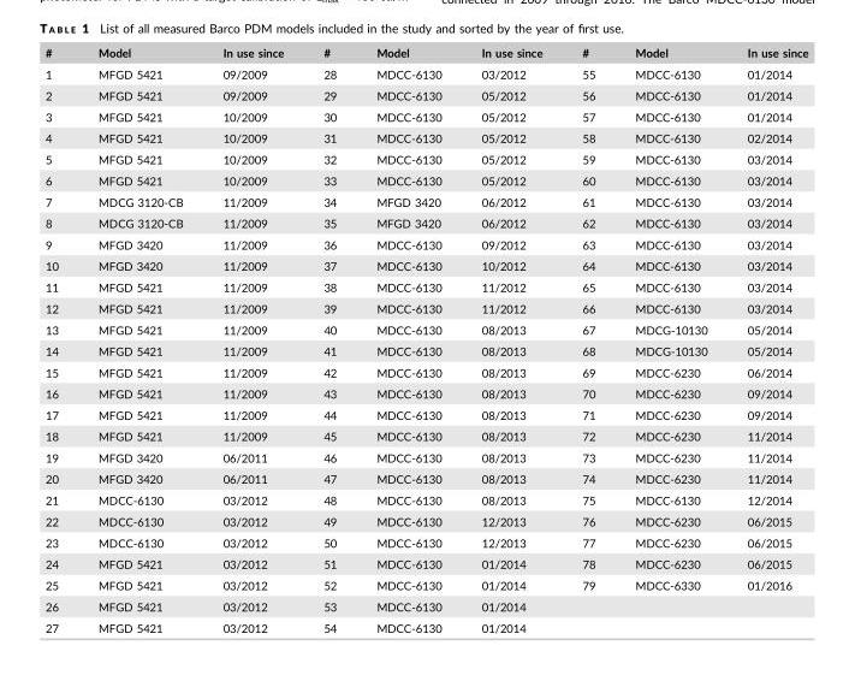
<table><thead><tr><td>#</td><td>Model</td><td>In use since</td><td>#</td><td>Model</td><td>In use since</td><td>#</td><td>Model</td><td>In use since</td></tr></thead><tbody><tr><td>1</td><td>MFGD 5421</td><td>09/2009</td><td>28</td><td>MDCC-6130</td><td>03/2012</td><td>55</td><td>MDCC-6130</td><td>01/2014</td></tr><tr><td>2</td><td>MFGD 5421</td><td>09/2009</td><td>29</td><td>MDCC-6130</td><td>05/2012</td><td>56</td><td>MDCC-6130</td><td>01/2014</td></tr><tr><td>3</td><td>MFGD 5421</td><td>10/2009</td><td>30</td><td>MDCC-6130</td><td>05/2012</td><td>57</td><td>MDCC-6130</td><td>01/2014</td></tr><tr><td>4</td><td>MFGD 5421</td><td>10/2009</td><td>31</td><td>MDCC-6130</td><td>05/2012</td><td>58</td><td>MDCC-6130</td><td>02/2014</td></tr><tr><td>5</td><td>MFGD 5421</td><td>10/2009</td><td>32</td><td>MDCC-6130</td><td>05/2012</td><td>59</td><td>MDCC-6130</td><td>03/2014</td></tr><tr><td>6</td><td>MFGD 5421</td><td>10/2009</td><td>33</td><td>MDCC-6130</td><td>05/2012</td><td>60</td><td>MDCC-6130</td><td>03/2014</td></tr><tr><td>7</td><td>MDCG 3120-CB</td><td>11/2009</td><td>34</td><td>MFGD 3420</td><td>06/2012</td><td>61</td><td>MDCC-6130</td><td>03/2014</td></tr><tr><td>8</td><td>MDCG 3120-CB</td><td>11/2009</td><td>35</td><td>MFGD 3420</td><td>06/2012</td><td>62</td><td>MDCC-6130</td><td>03/2014</td></tr><tr><td>9</td><td>MFGD 3420</td><td>11/2009</td><td>36</td><td>MDCC-6130</td><td>09/2012</td><td>63</td><td>MDCC-6130</td><td>03/2014</td></tr><tr><td>10</td><td>MFGD 3420</td><td>11/2009</td><td>37</td><td>MDCC-6130</td><td>10/2012</td><td>64</td><td>MDCC-6130</td><td>03/2014</td></tr><tr><td>11</td><td>MFGD 5421</td><td>11/2009</td><td>38</td><td>MDCC-6130</td><td>11/2012</td><td>65</td><td>MDCC-6130</td><td>03/2014</td></tr><tr><td>12</td><td>MFGD 5421</td><td>11/2009</td><td>39</td><td>MDCC-6130</td><td>11/2012</td><td>66</td><td>MDCC-6130</td><td>03/2014</td></tr><tr><td>13</td><td>MFGD 5421</td><td>11/2009</td><td>40</td><td>MDCC-6130</td><td>08/2013</td><td>67</td><td>MDCG-10130</td><td>05/2014</td></tr><tr><td>14</td><td>MFGD 5421</td><td>11/2009</td><td>41</td><td>MDCC-6130</td><td>08/2013</td><td>68</td><td>MDCG-10130</td><td>05/2014</td></tr><tr><td>15</td><td>MFGD 5421</td><td>11/2009</td><td>42</td><td>MDCC-6130</td><td>08/2013</td><td>69</td><td>MDCC-6230</td><td>06/2014</td></tr><tr><td>16</td><td>MFGD 5421</td><td>11/2009</td><td>43</td><td>MDCC-6130</td><td>08/2013</td><td>70</td><td>MDCC-6230</td><td>09/2014</td></tr><tr><td>17</td><td>MFGD 5421</td><td>11/2009</td><td>44</td><td>MDCC-6130</td><td>08/2013</td><td>71</td><td>MDCC-6230</td><td>09/2014</td></tr><tr><td>18</td><td>MFGD 5421</td><td>11/2009</td><td>45</td><td>MDCC-6130</td><td>08/2013</td><td>72</td><td>MDCC-6230</td><td>11/2014</td></tr><tr><td>19</td><td>MFGD 3420</td><td>06/2011</td><td>46</td><td>MDCC-6130</td><td>08/2013</td><td>73</td><td>MDCC-6230</td><td>11/2014</td></tr><tr><td>20</td><td>MFGD 3420</td><td>06/2011</td><td>47</td><td>MDCC-6130</td><td>08/2013</td><td>74</td><td>MDCC-6230</td><td>11/2014</td></tr><tr><td>21</td><td>MDCC-6130</td><td>03/2012</td><td>48</td><td>MDCC-6130</td><td>08/2013</td><td>75</td><td>MDCC-6130</td><td>12/2014</td></tr><tr><td>22</td><td>MDCC-6130</td><td>03/2012</td><td>49</td><td>MDCC-6130</td><td>12/2013</td><td>76</td><td>MDCC-6230</td><td>06/2015</td></tr><tr><td>23</td><td>MDCC-6130</td><td>03/2012</td><td>50</td><td>MDCC-6130</td><td>12/2013</td><td>77</td><td>MDCC-6230</td><td>06/2015</td></tr><tr><td>24</td><td>MFGD 5421</td><td>03/2012</td><td>51</td><td>MDCC-6130</td><td>01/2014</td><td>78</td><td>MDCC-6230</td><td>06/2015</td></tr><tr><td>25</td><td>MFGD 5421</td><td>03/2012</td><td>52</td><td>MDCC-6130</td><td>01/2014</td><td>79</td><td>MDCC-6330</td><td>01/2016</td></tr><tr><td>26</td><td>MFGD 5421</td><td>03/2012</td><td>53</td><td>MDCC-6130</td><td>01/2014</td><td></td><td></td><td></td></tr><tr><td>27</td><td>MFGD 5421</td><td>03/2012</td><td>54</td><td>MDCC-6130</td><td>01/2014</td><td></td><td></td><td></td></tr></tbody></table>